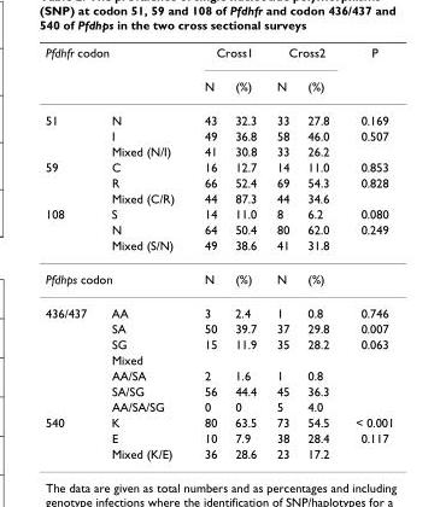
<table><thead><tr><td colspan="2">Pfdhfr codon</td><td colspan="2">Cross1</td><td colspan="2">Cross2</td><td rowspan="2">P</td></tr><tr><td></td><td></td><td>N</td><td>(%)</td><td>N</td><td>(%)</td></tr></thead><tbody><tr><td rowspan="3">51</td><td>N</td><td>43</td><td>32.3</td><td>33</td><td>27.8</td><td>0.169</td></tr><tr><td>I</td><td>49</td><td>36.8</td><td>58</td><td>46.0</td><td>0.507</td></tr><tr><td>Mixed (N/I)</td><td>41</td><td>30.8</td><td>33</td><td>26.2</td><td></td></tr><tr><td rowspan="3">59</td><td>C</td><td>16</td><td>12.7</td><td>14</td><td>11.0</td><td>0.853</td></tr><tr><td>R</td><td>66</td><td>52.4</td><td>69</td><td>54.3</td><td>0.828</td></tr><tr><td>Mixed (C/R)</td><td>44</td><td>87.3</td><td>44</td><td>34.6</td><td></td></tr><tr><td rowspan="3">108</td><td>S</td><td>14</td><td>11.0</td><td>8</td><td>6.2</td><td>0.080</td></tr><tr><td>N</td><td>64</td><td>50.4</td><td>80</td><td>62.0</td><td>0.249</td></tr><tr><td>Mixed (S/N)</td><td>49</td><td>38.6</td><td>41</td><td>31.8</td><td></td></tr><tr><td colspan="2">Pfdhps codon</td><td>N</td><td>(%)</td><td>N</td><td>(%)</td><td></td></tr><tr><td rowspan="7">436/437</td><td>AA</td><td>3</td><td>2.4</td><td>1</td><td>0.8</td><td>0.746</td></tr><tr><td>SA</td><td>50</td><td>39.7</td><td>37</td><td>29.8</td><td>0.007</td></tr><tr><td>SG</td><td>15</td><td>11.9</td><td>35</td><td>28.2</td><td>0.063</td></tr><tr><td>Mixed</td><td></td><td></td><td></td><td></td><td></td></tr><tr><td>AA/SA</td><td>2</td><td>1.6</td><td>1</td><td>0.8</td><td></td></tr><tr><td>SA/SG</td><td>56</td><td>44.4</td><td>45</td><td>36.3</td><td></td></tr><tr><td>AA/SA/SG</td><td>0</td><td>0</td><td>5</td><td>4.0</td><td></td></tr><tr><td rowspan="3">540</td><td>K</td><td>80</td><td>63.5</td><td>73</td><td>54.5</td><td>&lt; 0.001</td></tr><tr><td>E</td><td>10</td><td>7.9</td><td>38</td><td>28.4</td><td>0.117</td></tr><tr><td>Mixed (K/E)</td><td>36</td><td>28.6</td><td>23</td><td>17.2</td><td></td></tr></tbody></table>